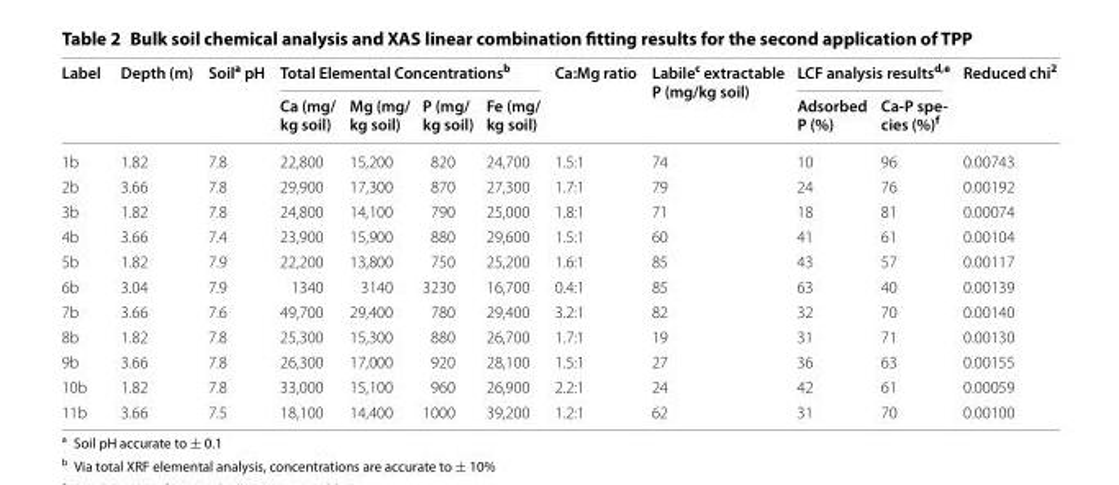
<table><thead><tr><td rowspan="2">Label</td><td rowspan="2">Depth (m)</td><td rowspan="2">Soil<sup>a</sup> pH</td><td colspan="4">Total Elemental Concentrations<sup>b</sup></td><td rowspan="2">Ca:Mg ratio</td><td rowspan="2">Labile<sup>c</sup> extractable P (mg/kg soil)</td><td colspan="2">LCF analysis results<sup>d,e</sup></td><td rowspan="2">Reduced chi<sup>2</sup></td></tr><tr><td>Ca (mg/ kg soil)</td><td>Mg (mg/ kg soil)</td><td>P (mg/ kg soil)</td><td>Fe (mg/ kg soil)</td><td>Adsorbed P (%)</td><td>Ca‑P spe‑ cies (%)f</td></tr></thead><tbody><tr><td>1b</td><td>1.82</td><td>7.8</td><td>22,800</td><td>15,200</td><td>820</td><td>24,700</td><td>1.5:1</td><td>74</td><td>10</td><td>96</td><td>0.00743</td></tr><tr><td>2b</td><td>3.66</td><td>7.8</td><td>29,900</td><td>17,300</td><td>870</td><td>27,300</td><td>1.7:1</td><td>79</td><td>24</td><td>76</td><td>0.00192</td></tr><tr><td>3b</td><td>1.82</td><td>7.8</td><td>24,800</td><td>14,100</td><td>790</td><td>25,000</td><td>1.8:1</td><td>71</td><td>18</td><td>81</td><td>0.00074</td></tr><tr><td>4b</td><td>3.66</td><td>7.4</td><td>23,900</td><td>15,900</td><td>880</td><td>29,600</td><td>1.5:1</td><td>60</td><td>41</td><td>61</td><td>0.00104</td></tr><tr><td>5b</td><td>1.82</td><td>7.9</td><td>22,200</td><td>13,800</td><td>750</td><td>25,200</td><td>1.6:1</td><td>85</td><td>43</td><td>57</td><td>0.00117</td></tr><tr><td>6b</td><td>3.04</td><td>7.9</td><td>1340</td><td>3140</td><td>3230</td><td>16,700</td><td>0.4:1</td><td>85</td><td>63</td><td>40</td><td>0.00139</td></tr><tr><td>7b</td><td>3.66</td><td>7.6</td><td>49,700</td><td>29,400</td><td>780</td><td>29,400</td><td>3.2:1</td><td>82</td><td>32</td><td>70</td><td>0.00140</td></tr><tr><td>8b</td><td>1.82</td><td>7.8</td><td>25,300</td><td>15,300</td><td>880</td><td>26,700</td><td>1.7:1</td><td>19</td><td>31</td><td>71</td><td>0.00130</td></tr><tr><td>9b</td><td>3.66</td><td>7.8</td><td>26,300</td><td>17,000</td><td>920</td><td>28,100</td><td>1.5:1</td><td>27</td><td>36</td><td>63</td><td>0.00155</td></tr><tr><td>10b</td><td>1.82</td><td>7.8</td><td>33,000</td><td>15,100</td><td>960</td><td>26,900</td><td>2.2:1</td><td>24</td><td>42</td><td>61</td><td>0.00059</td></tr><tr><td>11b</td><td>3.66</td><td>7.5</td><td>18,100</td><td>14,400</td><td>1000</td><td>39,200</td><td>1.2:1</td><td>62</td><td>31</td><td>70</td><td>0.00100</td></tr></tbody></table>